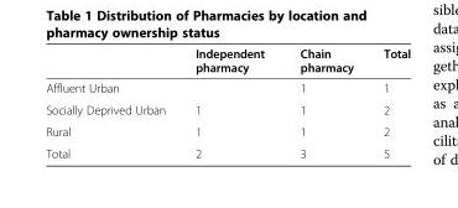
<table><thead><tr><td></td><td>Independent pharmacy</td><td>Chain pharmacy</td><td>Total</td></tr></thead><tbody><tr><td>Affluent Urban</td><td></td><td>1</td><td>1</td></tr><tr><td>Socially Deprived Urban</td><td>1</td><td>1</td><td>2</td></tr><tr><td>Rural</td><td>1</td><td>1</td><td>2</td></tr><tr><td>Total</td><td>2</td><td>3</td><td>5</td></tr></tbody></table>